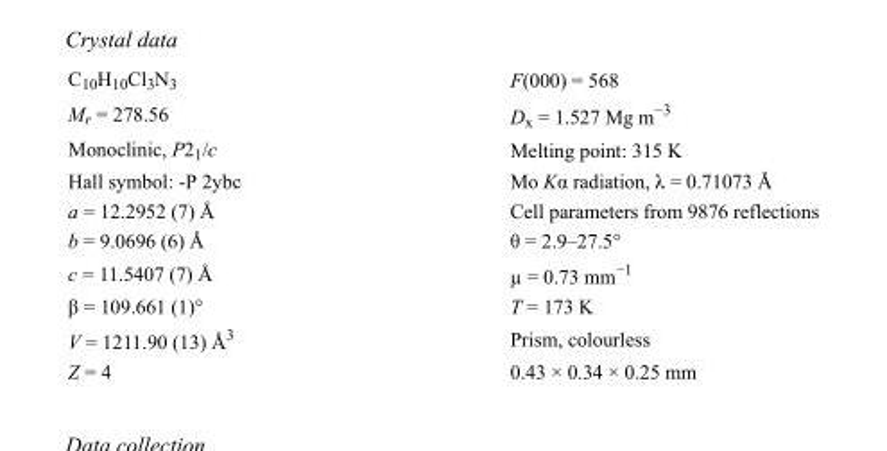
<table><tbody><tr><td>C<sub>10</sub>H<sub>10</sub>Cl<sub>3</sub>N<sub>3</sub></td><td>F(000) = 568</td></tr><tr><td>M<sub>r</sub> = 278.56</td><td>D<sub>x</sub> = 1.527 Mg m<sup>−3</sup></td></tr><tr><td>Monoclinic, P2<sub>1</sub>/c</td><td>Melting point: 315 K</td></tr><tr><td>Hall symbol: -P 2ybc</td><td>Mo Kα radiation, λ = 0.71073 Å</td></tr><tr><td>a = 12.2952 (7) Å</td><td>Cell parameters from 9876 reflections</td></tr><tr><td>b = 9.0696 (6) Å</td><td>θ = 2.9–27.5°</td></tr><tr><td>c = 11.5407 (7) Å</td><td>µ = 0.73 mm<sup>−1</sup></td></tr><tr><td>β = 109.661 (1)°</td><td>T = 173 K</td></tr><tr><td>V = 1211.90 (13) Å<sup>3</sup></td><td>Prism, colourless</td></tr><tr><td>Z = 4</td><td>0.43 × 0.34 × 0.25 mm</td></tr></tbody></table>